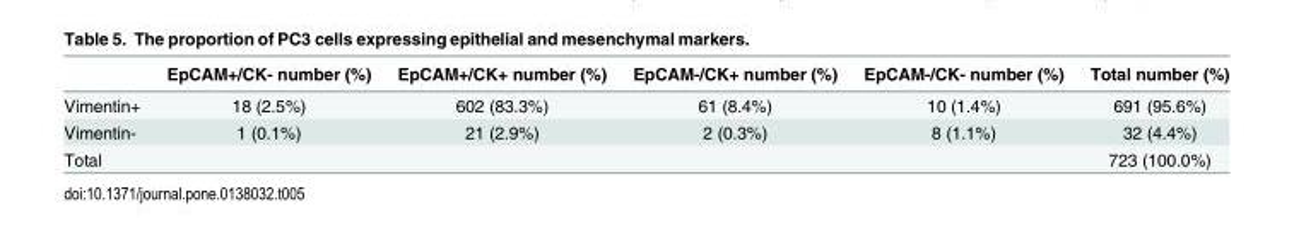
<table><thead><tr><td></td><td>EpCAM+/CK- number (%)</td><td>EpCAM+/CK+ number (%)</td><td>EpCAM-/CK+ number (%)</td><td>EpCAM-/CK- number (%)</td><td>Total number (%)</td></tr></thead><tbody><tr><td>Vimentin+</td><td>18 (2.5%)</td><td>602 (83.3%)</td><td>61 (8.4%)</td><td>10 (1.4%)</td><td>691 (95.6%)</td></tr><tr><td>Vimentin-</td><td>1 (0.1%)</td><td>21 (2.9%)</td><td>2 (0.3%)</td><td>8 (1.1%)</td><td>32 (4.4%)</td></tr><tr><td>Total</td><td></td><td></td><td></td><td></td><td>723 (100.0%)</td></tr></tbody></table>